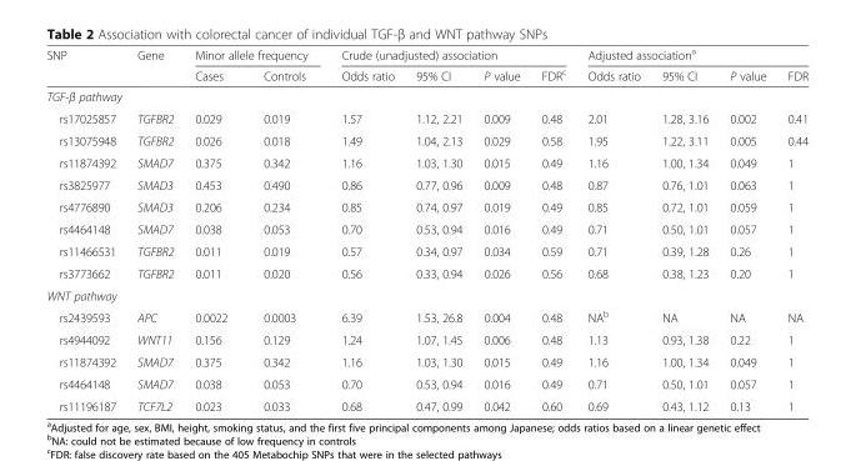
<table><thead><tr><td rowspan="2">SNP</td><td rowspan="2">Gene</td><td colspan="2">Minor allele frequency</td><td colspan="4">Crude (unadjusted) association</td><td colspan="4">Adjusted association<sup>a</sup></td></tr><tr><td>Cases</td><td>Controls</td><td>Odds ratio</td><td>95% CI</td><td>P value</td><td>FDR<sup>c</sup></td><td>Odds ratio</td><td>95% CI</td><td>P value</td><td>FDR</td></tr></thead><tbody><tr><td colspan="12">TGF-β pathway</td></tr><tr><td>rs17025857</td><td>TGFBR2</td><td>0.029</td><td>0.019</td><td>1.57</td><td>1.12, 2.21</td><td>0.009</td><td>0.48</td><td>2.01</td><td>1.28, 3.16</td><td>0.002</td><td>0.41</td></tr><tr><td>rs13075948</td><td>TGFBR2</td><td>0.026</td><td>0.018</td><td>1.49</td><td>1.04, 2.13</td><td>0.029</td><td>0.58</td><td>1.95</td><td>1.22, 3.11</td><td>0.005</td><td>0.44</td></tr><tr><td>rs11874392</td><td>SMAD7</td><td>0.375</td><td>0.342</td><td>1.16</td><td>1.03, 1.30</td><td>0.015</td><td>0.49</td><td>1.16</td><td>1.00, 1.34</td><td>0.049</td><td>1</td></tr><tr><td>rs3825977</td><td>SMAD3</td><td>0.453</td><td>0.490</td><td>0.86</td><td>0.77, 0.96</td><td>0.009</td><td>0.48</td><td>0.87</td><td>0.76, 1.01</td><td>0.063</td><td>1</td></tr><tr><td>rs4776890</td><td>SMAD3</td><td>0.206</td><td>0.234</td><td>0.85</td><td>0.74, 0.97</td><td>0.019</td><td>0.49</td><td>0.85</td><td>0.72, 1.01</td><td>0.059</td><td>1</td></tr><tr><td>rs4464148</td><td>SMAD7</td><td>0.038</td><td>0.053</td><td>0.70</td><td>0.53, 0.94</td><td>0.016</td><td>0.49</td><td>0.71</td><td>0.50, 1.01</td><td>0.057</td><td>1</td></tr><tr><td>rs11466531</td><td>TGFBR2</td><td>0.011</td><td>0.019</td><td>0.57</td><td>0.34, 0.97</td><td>0.034</td><td>0.59</td><td>0.71</td><td>0.39, 1.28</td><td>0.26</td><td>1</td></tr><tr><td>rs3773662</td><td>TGFBR2</td><td>0.011</td><td>0.020</td><td>0.56</td><td>0.33, 0.94</td><td>0.026</td><td>0.56</td><td>0.68</td><td>0.38, 1.23</td><td>0.20</td><td>1</td></tr><tr><td colspan="12">WNT pathway</td></tr><tr><td>rs2439593</td><td>APC</td><td>0.0022</td><td>0.0003</td><td>6.39</td><td>1.53, 26.8</td><td>0.004</td><td>0.48</td><td>NA<sup>b</sup></td><td>NA</td><td>NA</td><td>NA</td></tr><tr><td>rs4944092</td><td>WNT11</td><td>0.156</td><td>0.129</td><td>1.24</td><td>1.07, 1.45</td><td>0.006</td><td>0.48</td><td>1.13</td><td>0.93, 1.38</td><td>0.22</td><td>1</td></tr><tr><td>rs11874392</td><td>SMAD7</td><td>0.375</td><td>0.342</td><td>1.16</td><td>1.03, 1.30</td><td>0.015</td><td>0.49</td><td>1.16</td><td>1.00, 1.34</td><td>0.049</td><td>1</td></tr><tr><td>rs4464148</td><td>SMAD7</td><td>0.038</td><td>0.053</td><td>0.70</td><td>0.53, 0.94</td><td>0.016</td><td>0.49</td><td>0.71</td><td>0.50, 1.01</td><td>0.057</td><td>1</td></tr><tr><td>rs11196187</td><td>TCF7L2</td><td>0.023</td><td>0.033</td><td>0.68</td><td>0.47, 0.99</td><td>0.042</td><td>0.60</td><td>0.69</td><td>0.43, 1.12</td><td>0.13</td><td>1</td></tr></tbody></table>